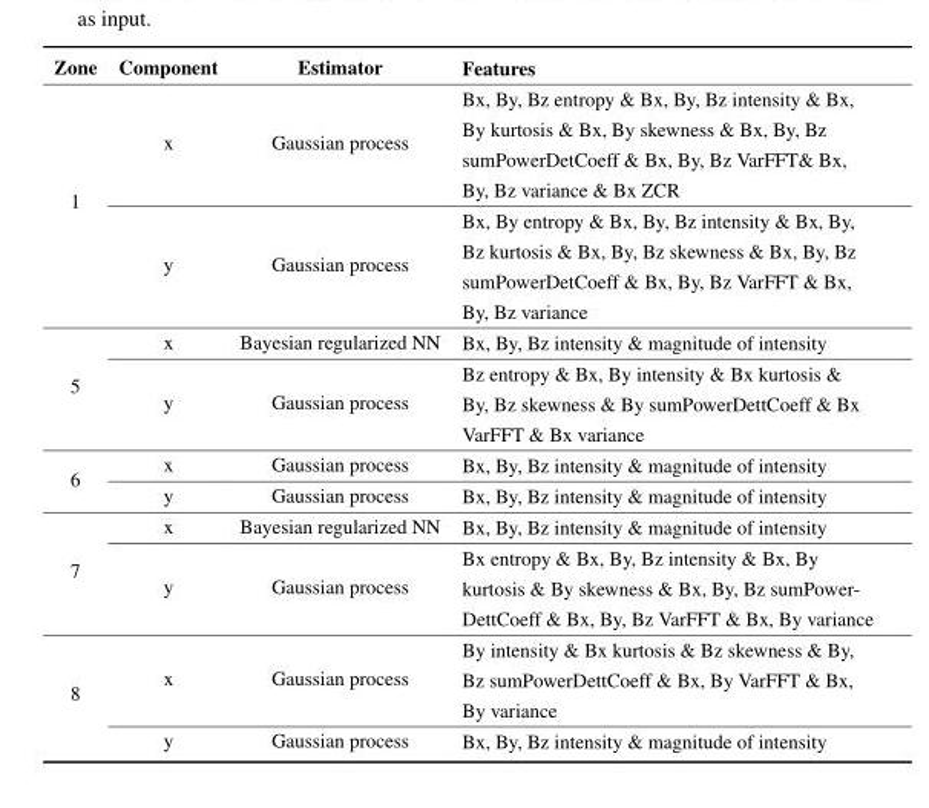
<table><thead><tr><td>Zone</td><td>Component</td><td>Estimator</td><td>Features</td></tr></thead><tbody><tr><td rowspan="2">1</td><td>x</td><td>Gaussian process</td><td>Bx, By, Bz entropy &amp; Bx, By, Bz intensity &amp; Bx, By kurtosis &amp; Bx, By skewness &amp; Bx, By, Bz sumPowerDetCoeff &amp; Bx, By, Bz VarFFT&amp; Bx, By, Bz variance &amp; Bx ZCR</td></tr><tr><td>y</td><td>Gaussian process</td><td>Bx, By entropy &amp; Bx, By, Bz intensity &amp; Bx, By, Bz kurtosis &amp; Bx, By, Bz skewness &amp; Bx, By, Bz sumPowerDetCoeff &amp; Bx, By, Bz VarFFT &amp; Bx, By, Bz variance</td></tr><tr><td rowspan="2">5</td><td>x</td><td>Bayesian regularized NN</td><td>Bx, By, Bz intensity &amp; magnitude of intensity</td></tr><tr><td>y</td><td>Gaussian process</td><td>Bz entropy &amp; Bx, By intensity &amp; Bx kurtosis &amp; By, Bz skewness &amp; By sumPowerDettCoeff &amp; Bx VarFFT &amp; Bx variance</td></tr><tr><td rowspan="2">6</td><td>x</td><td>Gaussian process</td><td>Bx, By, Bz intensity &amp; magnitude of intensity</td></tr><tr><td>y</td><td>Gaussian process</td><td>Bx, By, Bz intensity &amp; magnitude of intensity</td></tr><tr><td rowspan="2">7</td><td>x</td><td>Bayesian regularized NN</td><td>Bx, By, Bz intensity &amp; magnitude of intensity</td></tr><tr><td>y</td><td>Gaussian process</td><td>Bx entropy &amp; Bx, By, Bz intensity &amp; Bx, By kurtosis &amp; By skewness &amp; Bx, By, Bz sumPower- DettCoeff &amp; Bx, By, Bz VarFFT &amp; Bx, By variance</td></tr><tr><td rowspan="2">8</td><td>x</td><td>Gaussian process</td><td>By intensity &amp; Bx kurtosis &amp; Bz skewness &amp; By, Bz sumPowerDettCoeff &amp; Bx, By VarFFT &amp; Bx, By variance</td></tr><tr><td>y</td><td>Gaussian process</td><td>Bx, By, Bz intensity &amp; magnitude of intensity</td></tr></tbody></table>